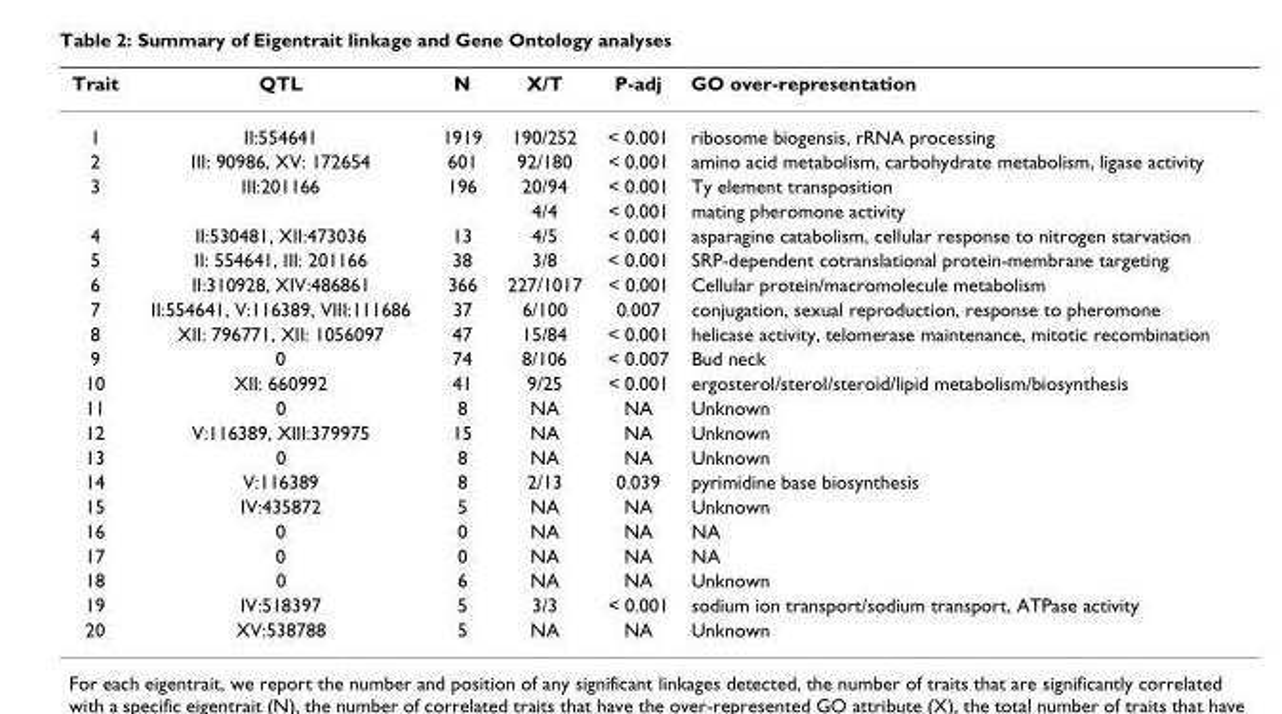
<table><thead><tr><td>Trait</td><td>QTL</td><td>N</td><td>X/T</td><td>P-adj</td><td>GO over-representation</td></tr></thead><tbody><tr><td>1</td><td>II:554641</td><td>1919</td><td>190/252</td><td>&lt; 0.001</td><td>ribosome biogensis, rRNA processing</td></tr><tr><td>2</td><td>III: 90986, XV: 172654</td><td>601</td><td>92/180</td><td>&lt; 0.001</td><td>amino acid metabolism, carbohydrate metabolism, ligase activity</td></tr><tr><td rowspan="2">3</td><td>III:201166</td><td>196</td><td>20/94</td><td>&lt; 0.001</td><td>Ty element transposition</td></tr><tr><td></td><td></td><td>4/4</td><td>&lt; 0.001</td><td>mating pheromone activity</td></tr><tr><td>4</td><td>II:530481, XII:473036</td><td>13</td><td>4/5</td><td>&lt; 0.001</td><td>asparagine catabolism, cellular response to nitrogen starvation</td></tr><tr><td>5</td><td>II: 554641, III: 201166</td><td>38</td><td>3/8</td><td>&lt; 0.001</td><td>SRP-dependent cotranslational protein-membrane targeting</td></tr><tr><td>6</td><td>II:310928, XIV:486861</td><td>366</td><td>227/1017</td><td>&lt; 0.001</td><td>Cellular protein/macromolecule metabolism</td></tr><tr><td>7</td><td>II:554641, V:116389, VIII:111686</td><td>37</td><td>6/100</td><td>0.007</td><td>conjugation, sexual reproduction, response to pheromone</td></tr><tr><td>8</td><td>XII: 796771, XII: 1056097</td><td>47</td><td>15/84</td><td>&lt; 0.001</td><td>helicase activity, telomerase maintenance, mitotic recombination</td></tr><tr><td>9</td><td>0</td><td>74</td><td>8/106</td><td>&lt; 0.007</td><td>Bud neck</td></tr><tr><td>10</td><td>XII: 660992</td><td>41</td><td>9/25</td><td>&lt; 0.001</td><td>ergosterol/sterol/steroid/lipid metabolism/biosynthesis</td></tr><tr><td>11</td><td>0</td><td>8</td><td>NA</td><td>NA</td><td>Unknown</td></tr><tr><td>12</td><td>V:116389, XIII:379975</td><td>15</td><td>NA</td><td>NA</td><td>Unknown</td></tr><tr><td>13</td><td>0</td><td>8</td><td>NA</td><td>NA</td><td>Unknown</td></tr><tr><td>14</td><td>V:116389</td><td>8</td><td>2/13</td><td>0.039</td><td>pyrimidine base biosynthesis</td></tr><tr><td>15</td><td>IV:435872</td><td>5</td><td>NA</td><td>NA</td><td>Unknown</td></tr><tr><td>16</td><td>0</td><td>0</td><td>NA</td><td>NA</td><td>NA</td></tr><tr><td>17</td><td>0</td><td>0</td><td>NA</td><td>NA</td><td>NA</td></tr><tr><td>18</td><td>0</td><td>6</td><td>NA</td><td>NA</td><td>Unknown</td></tr><tr><td>19</td><td>IV:518397</td><td>5</td><td>3/3</td><td>&lt; 0.001</td><td>sodium ion transport/sodium transport, ATPase activity</td></tr><tr><td>20</td><td>XV:538788</td><td>5</td><td>NA</td><td>NA</td><td>Unknown</td></tr></tbody></table>